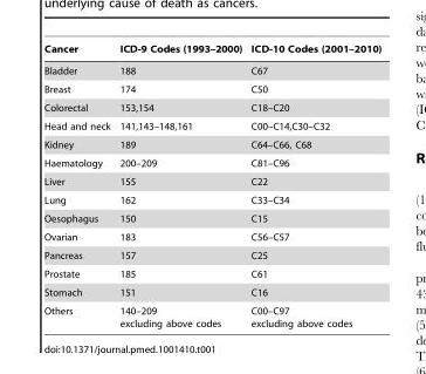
<table><thead><tr><td>Cancer</td><td>ICD-9 Codes (1993–2000)</td><td>ICD-10 Codes (2001–2010)</td></tr></thead><tbody><tr><td>Bladder</td><td>188</td><td>C67</td></tr><tr><td>Breast</td><td>174</td><td>C50</td></tr><tr><td>Colorectal</td><td>153,154</td><td>C18–C20</td></tr><tr><td>Head and neck</td><td>141,143–148,161</td><td>C00–C14,C30–C32</td></tr><tr><td>Kidney</td><td>189</td><td>C64–C66, C68</td></tr><tr><td>Haematology</td><td>200–209</td><td>C81–C96</td></tr><tr><td>Liver</td><td>155</td><td>C22</td></tr><tr><td>Lung</td><td>162</td><td>C33–C34</td></tr><tr><td>Oesophagus</td><td>150</td><td>C15</td></tr><tr><td>Ovarian</td><td>183</td><td>C56–C57</td></tr><tr><td>Pancreas</td><td>157</td><td>C25</td></tr><tr><td>Prostate</td><td>185</td><td>C61</td></tr><tr><td>Stomach</td><td>151</td><td>C16</td></tr><tr><td>Others</td><td>140–209 excluding above codes</td><td>C00–C97 excluding above codes</td></tr></tbody></table>